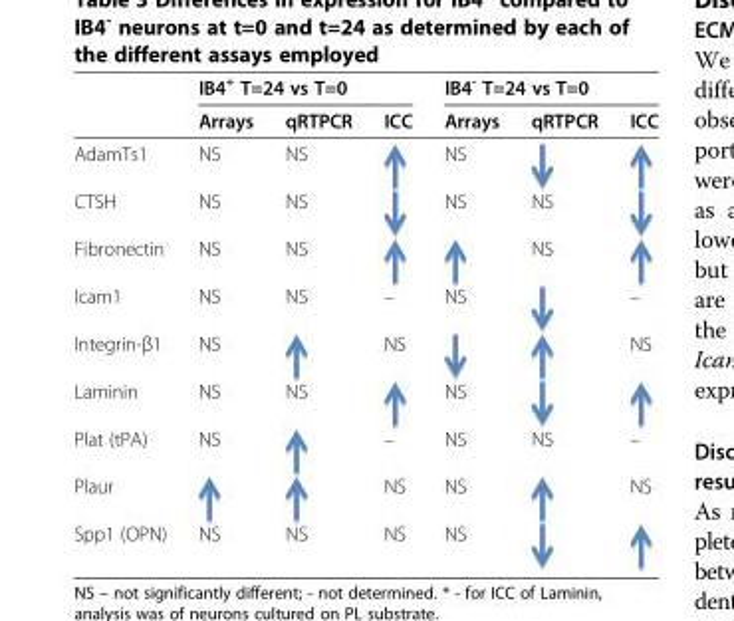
<table><thead><tr><td rowspan="2"></td><td colspan="3">IB4<sup>+</sup> T=24 vs T=0</td><td colspan="3">IB4<sup>-</sup> T=24 vs T=0</td></tr><tr><td>Arrays</td><td>qRTPCR</td><td>ICC</td><td>Arrays</td><td>qRTPCR</td><td>ICC</td></tr></thead><tbody><tr><td>AdamTs1</td><td>NS</td><td>NS</td><td></td><td>NS</td><td></td><td></td></tr><tr><td>CTSH</td><td>NS</td><td>NS</td><td></td><td>NS</td><td>NS</td><td></td></tr><tr><td>Fibronectin</td><td>NS</td><td>NS</td><td></td><td></td><td>NS</td><td></td></tr><tr><td>Icam1</td><td>NS</td><td>NS</td><td>–</td><td>NS</td><td></td><td>–</td></tr><tr><td>Integrin-β1</td><td>NS</td><td></td><td>NS</td><td></td><td></td><td>NS</td></tr><tr><td>Laminin</td><td>NS</td><td>NS</td><td></td><td>NS</td><td></td><td></td></tr><tr><td>Plat (tPA)</td><td>NS</td><td></td><td>–</td><td>NS</td><td>NS</td><td>–</td></tr><tr><td>Plaur</td><td></td><td></td><td>NS</td><td>NS</td><td></td><td>NS</td></tr><tr><td>Spp1 (OPN)</td><td>NS</td><td>NS</td><td>NS</td><td>NS</td><td></td><td></td></tr></tbody></table>